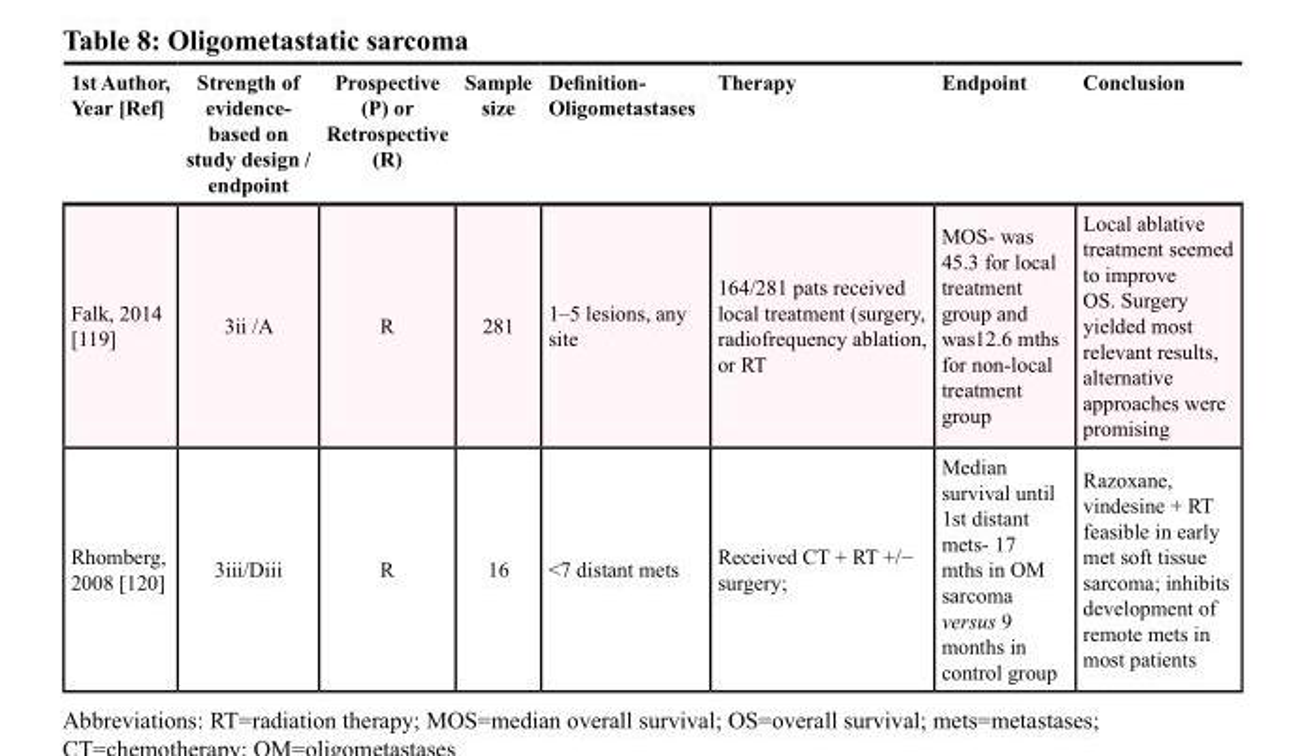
<table><thead><tr><td>1st Author, Year [Ref]</td><td>Strength of evidence based on study design / endpoint</td><td>Prospective (P) or Retrospective (R)</td><td>Sample size</td><td>Definition- Oligometastases</td><td>Therapy</td><td>Endpoint</td><td>Conclusion</td></tr></thead><tbody><tr><td>Falk, 2014 [119]</td><td>3ii /A</td><td>R</td><td>281</td><td>1–5 lesions, any site</td><td>164/281 pats received local treatment (surgery, radiofrequency ablation, or RT</td><td>MOS- was 45.3 for local treatment group and was12.6 mths for non-local treatment group</td><td>Local ablative treatment seemed to improve OS. Surgery yielded most relevant results, alternative approaches were promising</td></tr><tr><td>Rhomberg, 2008 [120]</td><td>3iii/Diii</td><td>R</td><td>16</td><td>&lt;7 distant mets</td><td>Received CT + RT +/− surgery;</td><td>Median survival until 1<sup>st</sup> distant mets- 17 mths in OM sarcoma versus 9 months in control group</td><td>Razoxane, vindesine + RT feasible in early met soft tissue sarcoma; inhibits development of remote mets in most patients</td></tr></tbody></table>